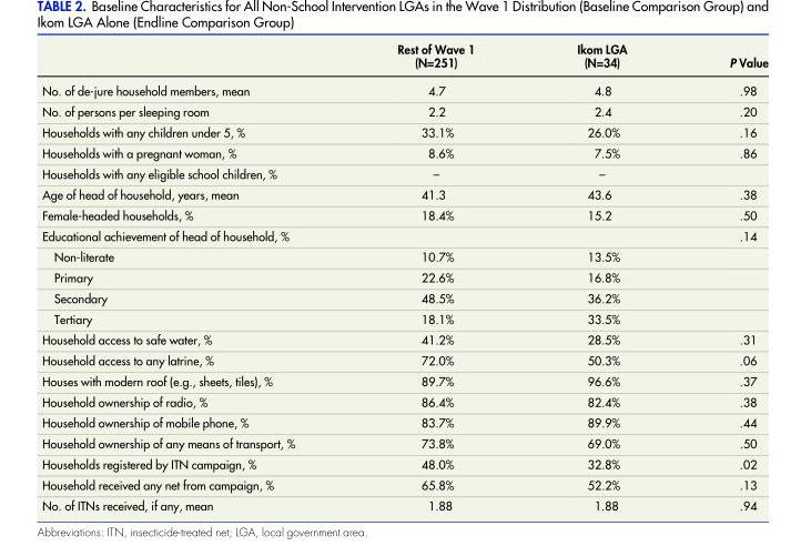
<table><thead><tr><td></td><td>Rest of Wave 1 (N=251)</td><td>Ikom LGA (N=34)</td><td>P Value</td></tr></thead><tbody><tr><td>No. of de-jure household members, mean</td><td>4.7</td><td>4.8</td><td>.98</td></tr><tr><td>No. of persons per sleeping room</td><td>2.2</td><td>2.4</td><td>.20</td></tr><tr><td>Households with any children under 5, %</td><td>33.1%</td><td>26.0%</td><td>.16</td></tr><tr><td>Households with a pregnant woman, %</td><td>8.6%</td><td>7.5%</td><td>.86</td></tr><tr><td>Households with any eligible school children, %</td><td>–</td><td>–</td><td></td></tr><tr><td>Age of head of household, years, mean</td><td>41.3</td><td>43.6</td><td>.38</td></tr><tr><td>Female-headed households, %</td><td>18.4%</td><td>15.2</td><td>.50</td></tr><tr><td>Educational achievement of head of household, %</td><td></td><td></td><td>.14</td></tr><tr><td>Non-literate</td><td>10.7%</td><td>13.5%</td><td></td></tr><tr><td>Primary</td><td>22.6%</td><td>16.8%</td><td></td></tr><tr><td>Secondary</td><td>48.5%</td><td>36.2%</td><td></td></tr><tr><td>Tertiary</td><td>18.1%</td><td>33.5%</td><td></td></tr><tr><td>Household access to safe water, %</td><td>41.2%</td><td>28.5%</td><td>.31</td></tr><tr><td>Household access to any latrine, %</td><td>72.0%</td><td>50.3%</td><td>.06</td></tr><tr><td>Houses with modern roof (e.g., sheets, tiles), %</td><td>89.7%</td><td>96.6%</td><td>.37</td></tr><tr><td>Household ownership of radio, %</td><td>86.4%</td><td>82.4%</td><td>.38</td></tr><tr><td>Household ownership of mobile phone, %</td><td>83.7%</td><td>89.9%</td><td>.44</td></tr><tr><td>Household ownership of any means of transport, %</td><td>73.8%</td><td>69.0%</td><td>.50</td></tr><tr><td>Households registered by ITN campaign, %</td><td>48.0%</td><td>32.8%</td><td>.02</td></tr><tr><td>Household received any net from campaign, %</td><td>65.8%</td><td>52.2%</td><td>.13</td></tr><tr><td>No. of ITNs received, if any, mean</td><td>1.88</td><td>1.88</td><td>.94</td></tr></tbody></table>